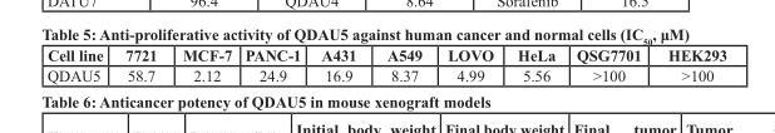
<table><thead><tr><td>Cell line</td><td>7721</td><td>MCF-7</td><td>PANC-1</td><td>A431</td><td>A549</td><td>LOVO</td><td>HeLa</td><td>QSG7701</td><td>HEK293</td></tr></thead><tbody><tr><td>QDAU5</td><td>58.7</td><td>2.12</td><td>24.9</td><td>16.9</td><td>8.37</td><td>4.99</td><td>5.56</td><td>&gt;100</td><td>&gt;100</td></tr></tbody></table>